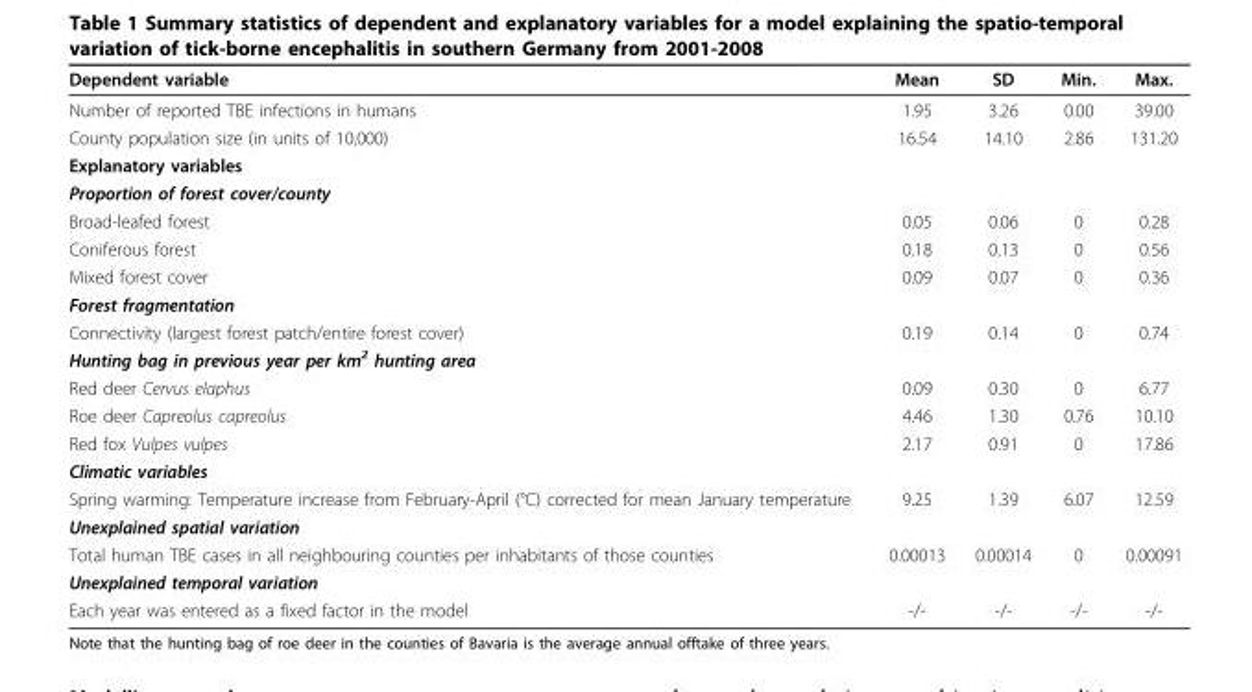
<table><thead><tr><td>Dependent variable</td><td>Mean</td><td>SD</td><td>Min.</td><td>Max.</td></tr></thead><tbody><tr><td>Number of reported TBE infections in humans</td><td>1.95</td><td>3.26</td><td>0.00</td><td>39.00</td></tr><tr><td>County population size (in units of 10,000)</td><td>16.54</td><td>14.10</td><td>2.86</td><td>131.20</td></tr><tr><td colspan="5">Explanatory variables</td></tr><tr><td colspan="5">Proportion of forest cover/county</td></tr><tr><td>Broad-leafed forest</td><td>0.05</td><td>0.06</td><td>0</td><td>0.28</td></tr><tr><td>Coniferous forest</td><td>0.18</td><td>0.13</td><td>0</td><td>0.56</td></tr><tr><td>Mixed forest cover</td><td>0.09</td><td>0.07</td><td>0</td><td>0.36</td></tr><tr><td colspan="5">Forest fragmentation</td></tr><tr><td>Connectivity (largest forest patch/entire forest cover)</td><td>0.19</td><td>0.14</td><td>0</td><td>0.74</td></tr><tr><td colspan="5">Hunting bag in previous year per km<sup>2</sup> hunting area</td></tr><tr><td>Red deer Cervus elaphus</td><td>0.09</td><td>0.30</td><td>0</td><td>6.77</td></tr><tr><td>Roe deer Capreolus capreolus</td><td>4.46</td><td>1.30</td><td>0.76</td><td>10.10</td></tr><tr><td>Red fox Vulpes vulpes</td><td>2.17</td><td>0.91</td><td>0</td><td>17.86</td></tr><tr><td colspan="5">Climatic variables</td></tr><tr><td>Spring warming: Temperature increase from February-April (°C) corrected for mean January temperature</td><td>9.25</td><td>1.39</td><td>6.07</td><td>12.59</td></tr><tr><td colspan="5">Unexplained spatial variation</td></tr><tr><td>Total human TBE cases in all neighbouring counties per inhabitants of those counties</td><td>0.00013</td><td>0.00014</td><td>0</td><td>0.00091</td></tr><tr><td colspan="5">Unexplained temporal variation</td></tr><tr><td>Each year was entered as a fixed factor in the model</td><td>-/-</td><td>-/-</td><td>-/-</td><td>-/-</td></tr></tbody></table>